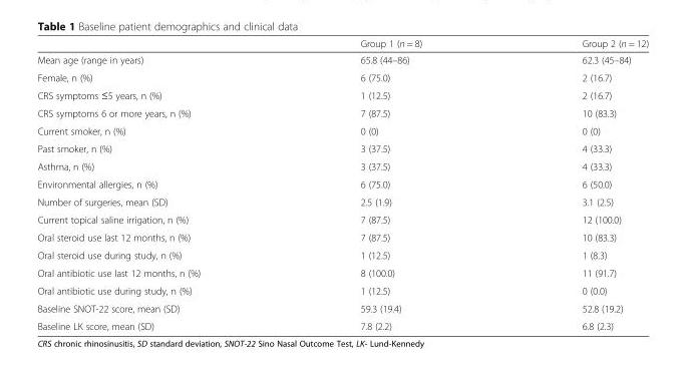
<table><thead><tr><td></td><td>Group 1 (n = 8)</td><td>Group 2 (n = 12)</td></tr></thead><tbody><tr><td>Mean age (range in years)</td><td>65.8 (44–86)</td><td>62.3 (45–84)</td></tr><tr><td>Female, n (%)</td><td>6 (75.0)</td><td>2 (16.7)</td></tr><tr><td>CRS symptoms ≤5 years, n (%)</td><td>1 (12.5)</td><td>2 (16.7)</td></tr><tr><td>CRS symptoms 6 or more years, n (%)</td><td>7 (87.5)</td><td>10 (83.3)</td></tr><tr><td>Current smoker, n (%)</td><td>0 (0)</td><td>0 (0)</td></tr><tr><td>Past smoker, n (%)</td><td>3 (37.5)</td><td>4 (33.3)</td></tr><tr><td>Asthma, n (%)</td><td>3 (37.5)</td><td>4 (33.3)</td></tr><tr><td>Environmental allergies, n (%)</td><td>6 (75.0)</td><td>6 (50.0)</td></tr><tr><td>Number of surgeries, mean (SD)</td><td>2.5 (1.9)</td><td>3.1 (2.5)</td></tr><tr><td>Current topical saline irrigation, n (%)</td><td>7 (87.5)</td><td>12 (100.0)</td></tr><tr><td>Oral steroid use last 12 months, n (%)</td><td>7 (87.5)</td><td>10 (83.3)</td></tr><tr><td>Oral steroid use during study, n (%)</td><td>1 (12.5)</td><td>1 (8.3)</td></tr><tr><td>Oral antibiotic use last 12 months, n (%)</td><td>8 (100.0)</td><td>11 (91.7)</td></tr><tr><td>Oral antibiotic use during study, n (%)</td><td>1 (12.5)</td><td>0 (0.0)</td></tr><tr><td>Baseline SNOT-22 score, mean (SD)</td><td>59.3 (19.4)</td><td>52.8 (19.2)</td></tr><tr><td>Baseline LK score, mean (SD)</td><td>7.8 (2.2)</td><td>6.8 (2.3)</td></tr></tbody></table>